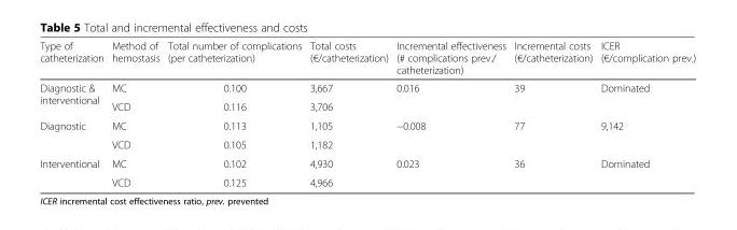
<table><thead><tr><td>Type of catheterization</td><td>Method of hemostasis</td><td>Total number of complications (per catheterization)</td><td>Total costs (€/catheterization)</td><td>Incremental effectiveness (# complications prev./ catheterization)</td><td>Incremental costs (€/catheterization)</td><td>ICER (€/complication prev.)</td></tr></thead><tbody><tr><td rowspan="2">Diagnostic &amp; interventional</td><td>MC</td><td>0.100</td><td>3,667</td><td rowspan="2">0.016</td><td rowspan="2">39</td><td rowspan="2">Dominated</td></tr><tr><td>VCD</td><td>0.116</td><td>3,706</td></tr><tr><td rowspan="2">Diagnostic</td><td>MC</td><td>0.113</td><td>1,105</td><td rowspan="2">−0.008</td><td rowspan="2">77</td><td rowspan="2">9,142</td></tr><tr><td>VCD</td><td>0.105</td><td>1,182</td></tr><tr><td rowspan="2">Interventional</td><td>MC</td><td>0.102</td><td>4,930</td><td rowspan="2">0.023</td><td rowspan="2">36</td><td rowspan="2">Dominated</td></tr><tr><td>VCD</td><td>0.125</td><td>4,966</td></tr></tbody></table>